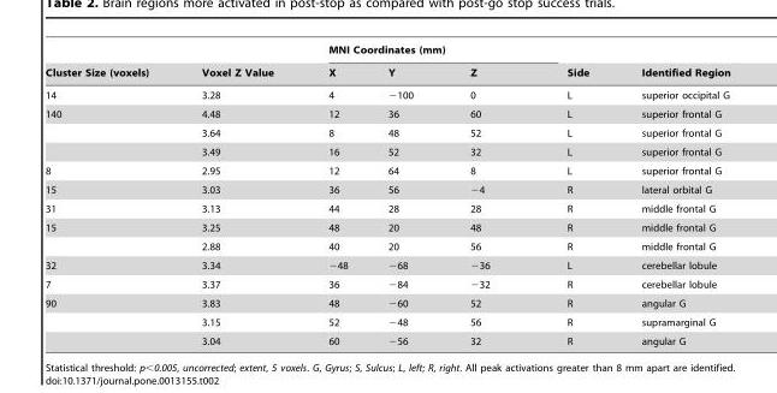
<table><thead><tr><td rowspan="2">Cluster Size (voxels)</td><td rowspan="2">Voxel Z Value</td><td colspan="3">MNI Coordinates (mm)</td><td rowspan="2">Side</td><td rowspan="2">Identified Region</td></tr><tr><td>X</td><td>Y</td><td>Z</td></tr></thead><tbody><tr><td>14</td><td>3.28</td><td>4</td><td>−100</td><td>0</td><td>L</td><td>superior occipital G</td></tr><tr><td rowspan="3">140</td><td>4.48</td><td>12</td><td>36</td><td>60</td><td>L</td><td>superior frontal G</td></tr><tr><td>3.64</td><td>8</td><td>48</td><td>52</td><td>L</td><td>superior frontal G</td></tr><tr><td>3.49</td><td>16</td><td>52</td><td>32</td><td>L</td><td>superior frontal G</td></tr><tr><td>8</td><td>2.95</td><td>12</td><td>64</td><td>8</td><td>L</td><td>superior frontal G</td></tr><tr><td>15</td><td>3.03</td><td>36</td><td>56</td><td>−4</td><td>R</td><td>lateral orbital G</td></tr><tr><td>31</td><td>3.13</td><td>44</td><td>28</td><td>28</td><td>R</td><td>middle frontal G</td></tr><tr><td rowspan="2">15</td><td>3.25</td><td>48</td><td>20</td><td>48</td><td>R</td><td>middle frontal G</td></tr><tr><td>2.88</td><td>40</td><td>20</td><td>56</td><td>R</td><td>middle frontal G</td></tr><tr><td>32</td><td>3.34</td><td>−48</td><td>−68</td><td>−36</td><td>L</td><td>cerebellar lobule</td></tr><tr><td>7</td><td>3.37</td><td>36</td><td>−84</td><td>−32</td><td>R</td><td>cerebellar lobule</td></tr><tr><td rowspan="3">90</td><td>3.83</td><td>48</td><td>−60</td><td>52</td><td>R</td><td>angular G</td></tr><tr><td>3.15</td><td>52</td><td>−48</td><td>56</td><td>R</td><td>supramarginal G</td></tr><tr><td>3.04</td><td>60</td><td>−56</td><td>32</td><td>R</td><td>angular G</td></tr></tbody></table>